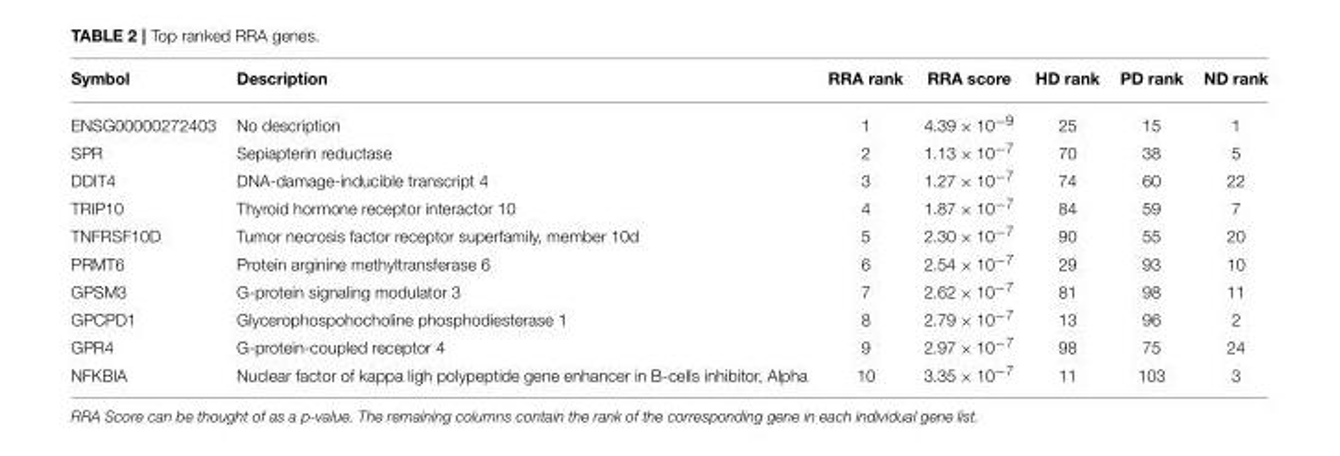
<table><thead><tr><td>Symbol</td><td>Description</td><td>RRA rank</td><td>RRA score</td><td>HD rank</td><td>PD rank</td><td>ND rank</td></tr></thead><tbody><tr><td>ENSG00000272403</td><td>No description</td><td>1</td><td>4.39 × 10<sup>−9</sup></td><td>25</td><td>15</td><td>1</td></tr><tr><td>SPR</td><td>Sepiapterin reductase</td><td>2</td><td>1.13 × 10<sup>−7</sup></td><td>70</td><td>38</td><td>5</td></tr><tr><td>DDIT4</td><td>DNA-damage-inducible transcript 4</td><td>3</td><td>1.27 × 10<sup>−7</sup></td><td>74</td><td>60</td><td>22</td></tr><tr><td>TRIP10</td><td>Thyroid hormone receptor interactor 10</td><td>4</td><td>1.87 × 10<sup>−7</sup></td><td>84</td><td>59</td><td>7</td></tr><tr><td>TNFRSF10D</td><td>Tumor necrosis factor receptor superfamily, member 10d</td><td>5</td><td>2.30 × 10<sup>−7</sup></td><td>90</td><td>55</td><td>20</td></tr><tr><td>PRMT6</td><td>Protein arginine methyltransferase 6</td><td>6</td><td>2.54 × 10<sup>−7</sup></td><td>29</td><td>93</td><td>10</td></tr><tr><td>GPSM3</td><td>G-protein signaling modulator 3</td><td>7</td><td>2.62 × 10<sup>−7</sup></td><td>81</td><td>98</td><td>11</td></tr><tr><td>GPCPD1</td><td>Glycerophospohocholine phosphodiesterase 1</td><td>8</td><td>2.79 × 10<sup>−7</sup></td><td>13</td><td>96</td><td>2</td></tr><tr><td>GPR4</td><td>G-protein-coupled receptor 4</td><td>9</td><td>2.97 × 10<sup>−7</sup></td><td>98</td><td>75</td><td>24</td></tr><tr><td>NFKBIA</td><td>Nuclear factor of kappa ligh polypeptide gene enhancer in B-cells inhibitor, Alpha</td><td>10</td><td>3.35 × 10<sup>−7</sup></td><td>11</td><td>103</td><td>3</td></tr></tbody></table>